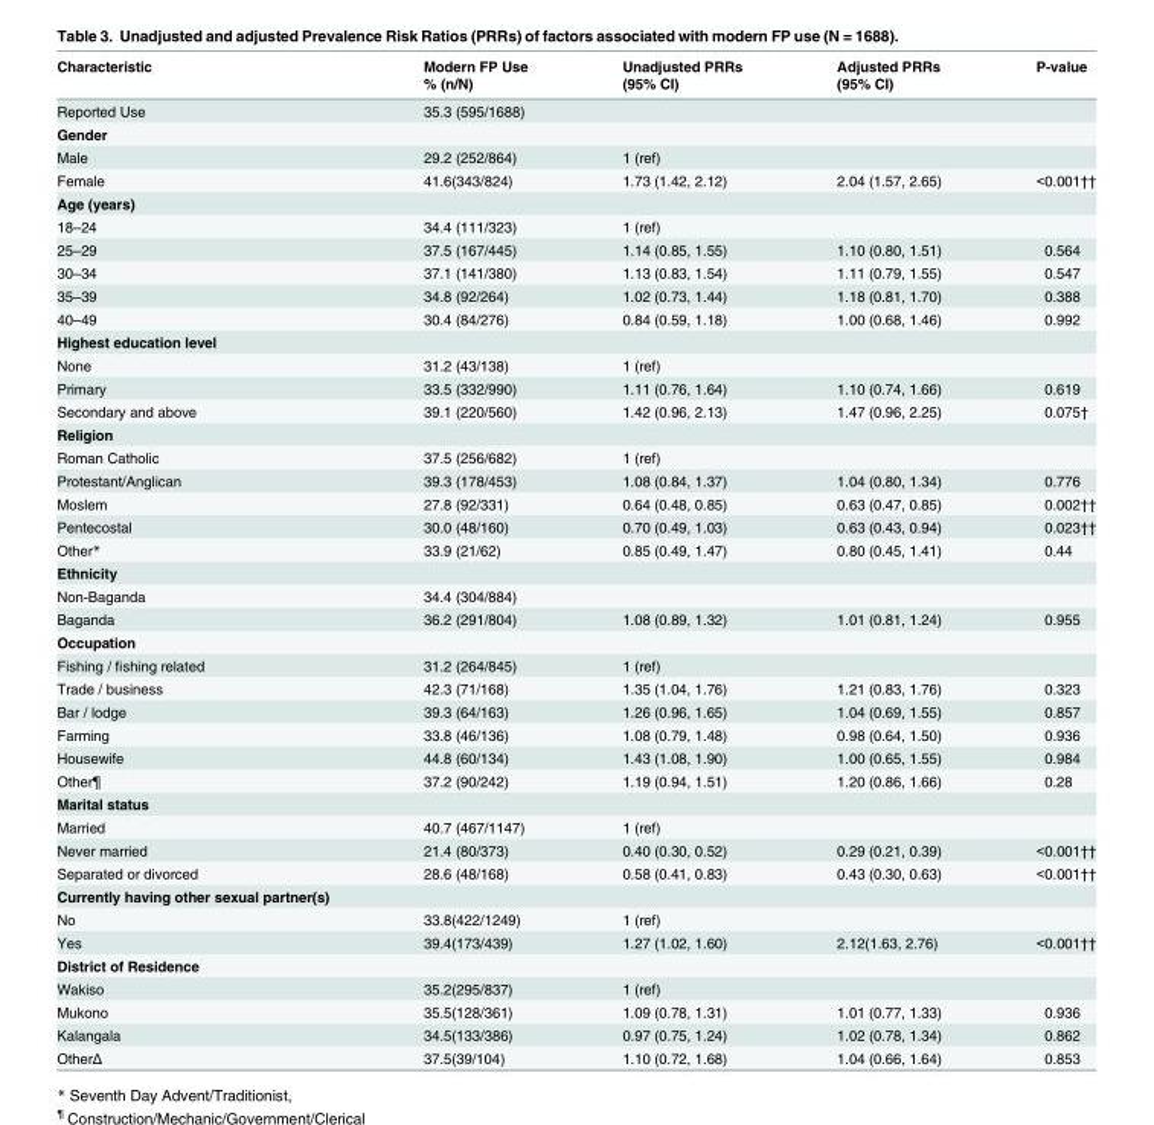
<table><thead><tr><td rowspan="2">Characteristic</td><td rowspan="2">Modern FP Use % (n/N)</td><td rowspan="2">Unadjusted PRRs (95% CI)</td><td rowspan="2">Adjusted PRRs (95% CI)</td><td rowspan="2">P-value</td></tr><tr></tr></thead><tbody><tr><td>Reported Use</td><td>35.3 (595/1688)</td><td></td><td></td><td></td></tr><tr><td colspan="5">Gender</td></tr><tr><td>Male</td><td>29.2 (252/864)</td><td>1 (ref)</td><td></td><td></td></tr><tr><td>Female</td><td>41.6(343/824)</td><td>1.73 (1.42, 2.12)</td><td>2.04 (1.57, 2.65)</td><td>&lt;0.001††</td></tr><tr><td colspan="5">Age (years)</td></tr><tr><td>18–24</td><td>34.4 (111/323)</td><td>1 (ref)</td><td></td><td></td></tr><tr><td>25–29</td><td>37.5 (167/445)</td><td>1.14 (0.85, 1.55)</td><td>1.10 (0.80, 1.51)</td><td>0.564</td></tr><tr><td>30–34</td><td>37.1 (141/380)</td><td>1.13 (0.83, 1.54)</td><td>1.11 (0.79, 1.55)</td><td>0.547</td></tr><tr><td>35–39</td><td>34.8 (92/264)</td><td>1.02 (0.73, 1.44)</td><td>1.18 (0.81, 1.70)</td><td>0.388</td></tr><tr><td>40–49</td><td>30.4 (84/276)</td><td>0.84 (0.59, 1.18)</td><td>1.00 (0.68, 1.46)</td><td>0.992</td></tr><tr><td colspan="5">Highest education level</td></tr><tr><td>None</td><td>31.2 (43/138)</td><td>1 (ref)</td><td></td><td></td></tr><tr><td>Primary</td><td>33.5 (332/990)</td><td>1.11 (0.76, 1.64)</td><td>1.10 (0.74, 1.66)</td><td>0.619</td></tr><tr><td>Secondary and above</td><td>39.1 (220/560)</td><td>1.42 (0.96, 2.13)</td><td>1.47 (0.96, 2.25)</td><td>0.075†</td></tr><tr><td colspan="5">Religion</td></tr><tr><td>Roman Catholic</td><td>37.5 (256/682)</td><td>1 (ref)</td><td></td><td></td></tr><tr><td>Protestant/Anglican</td><td>39.3 (178/453)</td><td>1.08 (0.84, 1.37)</td><td>1.04 (0.80, 1.34)</td><td>0.776</td></tr><tr><td>Moslem</td><td>27.8 (92/331)</td><td>0.64 (0.48, 0.85)</td><td>0.63 (0.47, 0.85)</td><td>0.002††</td></tr><tr><td>Pentecostal</td><td>30.0 (48/160)</td><td>0.70 (0.49, 1.03)</td><td>0.63 (0.43, 0.94)</td><td>0.023††</td></tr><tr><td>Other*</td><td>33.9 (21/62)</td><td>0.85 (0.49, 1.47)</td><td>0.80 (0.45, 1.41)</td><td>0.44</td></tr><tr><td colspan="5">Ethnicity</td></tr><tr><td>Non-Baganda</td><td>34.4 (304/884)</td><td></td><td></td><td></td></tr><tr><td>Baganda</td><td>36.2 (291/804)</td><td>1.08 (0.89, 1.32)</td><td>1.01 (0.81, 1.24)</td><td>0.955</td></tr><tr><td colspan="5">Occupation</td></tr><tr><td>Fishing / fishing related</td><td>31.2 (264/845)</td><td>1 (ref)</td><td></td><td></td></tr><tr><td>Trade / business</td><td>42.3 (71/168)</td><td>1.35 (1.04, 1.76)</td><td>1.21 (0.83, 1.76)</td><td>0.323</td></tr><tr><td>Bar / lodge</td><td>39.3 (64/163)</td><td>1.26 (0.96, 1.65)</td><td>1.04 (0.69, 1.55)</td><td>0.857</td></tr><tr><td>Farming</td><td>33.8 (46/136)</td><td>1.08 (0.79, 1.48)</td><td>0.98 (0.64, 1.50)</td><td>0.936</td></tr><tr><td>Housewife</td><td>44.8 (60/134)</td><td>1.43 (1.08, 1.90)</td><td>1.00 (0.65, 1.55)</td><td>0.984</td></tr><tr><td>Other¶</td><td>37.2 (90/242)</td><td>1.19 (0.94, 1.51)</td><td>1.20 (0.86, 1.66)</td><td>0.28</td></tr><tr><td colspan="5">Marital status</td></tr><tr><td>Married</td><td>40.7 (467/1147)</td><td>1 (ref)</td><td></td><td></td></tr><tr><td>Never married</td><td>21.4 (80/373)</td><td>0.40 (0.30, 0.52)</td><td>0.29 (0.21, 0.39)</td><td>&lt;0.001††</td></tr><tr><td>Separated or divorced</td><td>28.6 (48/168)</td><td>0.58 (0.41, 0.83)</td><td>0.43 (0.30, 0.63)</td><td>&lt;0.001††</td></tr><tr><td colspan="5">Currently having other sexual partner(s)</td></tr><tr><td>No</td><td>33.8(422/1249)</td><td>1 (ref)</td><td></td><td></td></tr><tr><td>Yes</td><td>39.4(173/439)</td><td>1.27 (1.02, 1.60)</td><td>2.12(1.63, 2.76)</td><td>&lt;0.001††</td></tr><tr><td colspan="5">District of Residence</td></tr><tr><td>Wakiso</td><td>35.2(295/837)</td><td>1 (ref)</td><td></td><td></td></tr><tr><td>Mukono</td><td>35.5(128/361)</td><td>1.09 (0.78, 1.31)</td><td>1.01 (0.77, 1.33)</td><td>0.936</td></tr><tr><td>Kalangala</td><td>34.5(133/386)</td><td>0.97 (0.75, 1.24)</td><td>1.02 (0.78, 1.34)</td><td>0.862</td></tr><tr><td>OtherΔ</td><td>37.5(39/104)</td><td>1.10 (0.72, 1.68)</td><td>1.04 (0.66, 1.64)</td><td>0.853</td></tr></tbody></table>